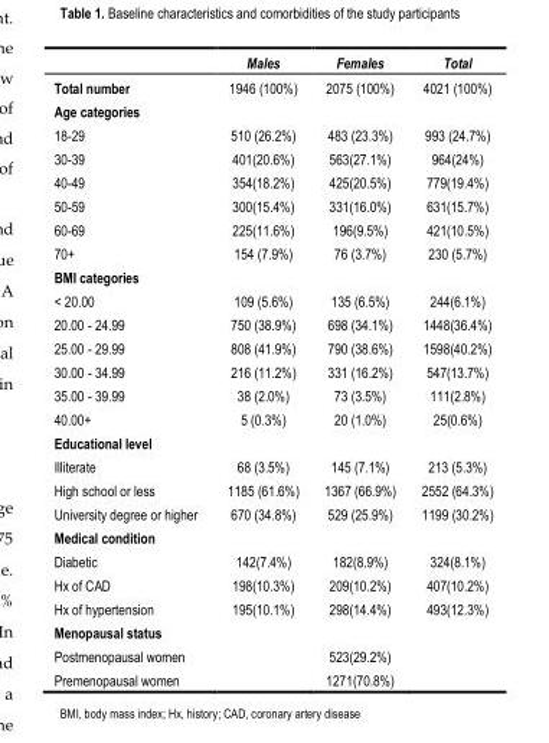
<table><thead><tr><td></td><td>Males</td><td>Females</td><td>Total</td></tr></thead><tbody><tr><td>Total number</td><td>1946 (100%)</td><td>2075 (100%)</td><td>4021 (100%)</td></tr><tr><td colspan="4">Age categories</td></tr><tr><td>18-29</td><td>510 (26.2%)</td><td>483 (23.3%)</td><td>993 (24.7%)</td></tr><tr><td>30-39</td><td>401(20.6%)</td><td>563(27.1%)</td><td>964(24%)</td></tr><tr><td>40-49</td><td>354(18.2%)</td><td>425(20.5%)</td><td>779(19.4%)</td></tr><tr><td>50-59</td><td>300(15.4%)</td><td>331(16.0%)</td><td>631(15.7%)</td></tr><tr><td>60-69</td><td>225(11.6%)</td><td>196(9.5%)</td><td>421(10.5%)</td></tr><tr><td>70+</td><td>154 (7.9%)</td><td>76 (3.7%)</td><td>230 (5.7%)</td></tr><tr><td colspan="4">BMI categories</td></tr><tr><td>&lt; 20.00</td><td>109 (5.6%)</td><td>135 (6.5%)</td><td>244(6.1%)</td></tr><tr><td>20.00 - 24.99</td><td>750 (38.9%)</td><td>698 (34.1%)</td><td>1448(36.4%)</td></tr><tr><td>25.00 - 29.99</td><td>808 (41.9%)</td><td>790 (38.6%)</td><td>1598(40.2%)</td></tr><tr><td>30.00 - 34.99</td><td>216 (11.2%)</td><td>331 (16.2%)</td><td>547(13.7%)</td></tr><tr><td>35.00 - 39.99</td><td>38 (2.0%)</td><td>73 (3.5%)</td><td>111(2.8%)</td></tr><tr><td>40.00+</td><td>5 (0.3%)</td><td>20 (1.0%)</td><td>25(0.6%)</td></tr><tr><td colspan="4">Educational level</td></tr><tr><td>Illiterate</td><td>68 (3.5%)</td><td>145 (7.1%)</td><td>213 (5.3%)</td></tr><tr><td>High school or less</td><td>1185 (61.6%)</td><td>1367 (66.9%)</td><td>2552 (64.3%)</td></tr><tr><td>University degree or higher</td><td>670 (34.8%)</td><td>529 (25.9%)</td><td>1199 (30.2%)</td></tr><tr><td colspan="4">Medical condition</td></tr><tr><td>Diabetic</td><td>142(7.4%)</td><td>182(8.9%)</td><td>324(8.1%)</td></tr><tr><td>Hx of CAD</td><td>198(10.3%)</td><td>209(10.2%)</td><td>407(10.2%)</td></tr><tr><td>Hx of hypertension</td><td>195(10.1%)</td><td>298(14.4%)</td><td>493(12.3%)</td></tr><tr><td colspan="4">Menopausal status</td></tr><tr><td>Postmenopausal women</td><td></td><td>523(29.2%)</td><td></td></tr><tr><td>Premenopausal women</td><td></td><td>1271(70.8%)</td><td></td></tr></tbody></table>